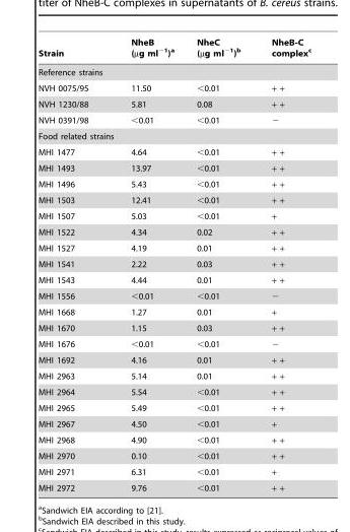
<table><thead><tr><td>Strain</td><td>NheB (µg ml<sup>−1</sup>)<sup>a</sup></td><td>NheC (µg ml<sup>−1</sup>)<sup>b</sup></td><td>NheB-C complex<sup>c</sup></td></tr></thead><tbody><tr><td colspan="4">Reference strains</td></tr><tr><td>NVH 0075/95</td><td>11.50</td><td>&lt;0.01</td><td>+ +</td></tr><tr><td>NVH 1230/88</td><td>5.81</td><td>0.08</td><td>+ +</td></tr><tr><td>NVH 0391/98</td><td>&lt;0.01</td><td>&lt;0.01</td><td>−</td></tr><tr><td colspan="4">Food related strains</td></tr><tr><td>MHI 1477</td><td>4.64</td><td>&lt;0.01</td><td>+ +</td></tr><tr><td>MHI 1493</td><td>13.97</td><td>&lt;0.01</td><td>+ +</td></tr><tr><td>MHI 1496</td><td>5.43</td><td>&lt;0.01</td><td>+ +</td></tr><tr><td>MHI 1503</td><td>12.41</td><td>&lt;0.01</td><td>+ +</td></tr><tr><td>MHI 1507</td><td>5.03</td><td>&lt;0.01</td><td>+</td></tr><tr><td>MHI 1522</td><td>4.34</td><td>0.02</td><td>+ +</td></tr><tr><td>MHI 1527</td><td>4.19</td><td>0.01</td><td>+ +</td></tr><tr><td>MHI 1541</td><td>2.22</td><td>0.03</td><td>+ +</td></tr><tr><td>MHI 1543</td><td>4.44</td><td>0.01</td><td>+ +</td></tr><tr><td>MHI 1556</td><td>&lt;0.01</td><td>&lt;0.01</td><td>−</td></tr><tr><td>MHI 1668</td><td>1.27</td><td>0.01</td><td>+</td></tr><tr><td>MHI 1670</td><td>1.15</td><td>0.03</td><td>+ +</td></tr><tr><td>MHI 1676</td><td>&lt;0.01</td><td>&lt;0.01</td><td>−</td></tr><tr><td>MHI 1692</td><td>4.16</td><td>0.01</td><td>+ +</td></tr><tr><td>MHI 2963</td><td>5.14</td><td>0.01</td><td>+ +</td></tr><tr><td>MHI 2964</td><td>5.54</td><td>&lt;0.01</td><td>+ +</td></tr><tr><td>MHI 2965</td><td>5.49</td><td>&lt;0.01</td><td>+ +</td></tr><tr><td>MHI 2967</td><td>4.50</td><td>&lt;0.01</td><td>+</td></tr><tr><td>MHI 2968</td><td>4.90</td><td>&lt;0.01</td><td>+ +</td></tr><tr><td>MHI 2970</td><td>0.10</td><td>&lt;0.01</td><td>+ +</td></tr><tr><td>MHI 2971</td><td>6.31</td><td>&lt;0.01</td><td>+</td></tr><tr><td>MHI 2972</td><td>9.76</td><td>&lt;0.01</td><td>+ +</td></tr></tbody></table>